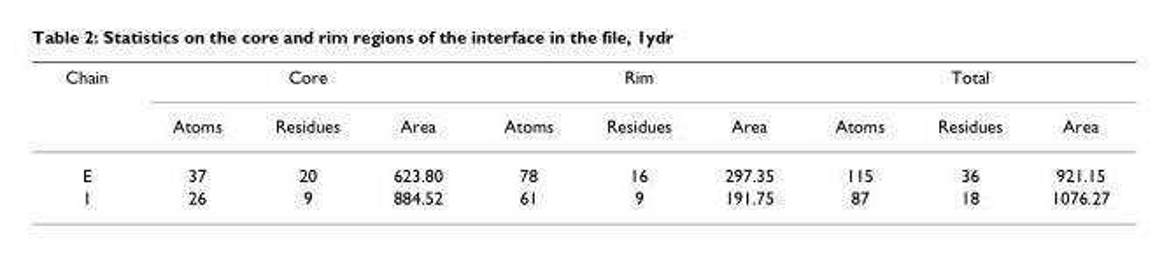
<table><thead><tr><td rowspan="2">Chain</td><td colspan="3">Core</td><td colspan="3">Rim</td><td colspan="3">Total</td></tr><tr><td>Atoms</td><td>Residues</td><td>Area</td><td>Atoms</td><td>Residues</td><td>Area</td><td>Atoms</td><td>Residues</td><td>Area</td></tr></thead><tbody><tr><td>E</td><td>37</td><td>20</td><td>623.80</td><td>78</td><td>16</td><td>297.35</td><td>115</td><td>36</td><td>921.15</td></tr><tr><td>I</td><td>26</td><td>9</td><td>884.52</td><td>61</td><td>9</td><td>191.75</td><td>87</td><td>18</td><td>1076.27</td></tr></tbody></table>